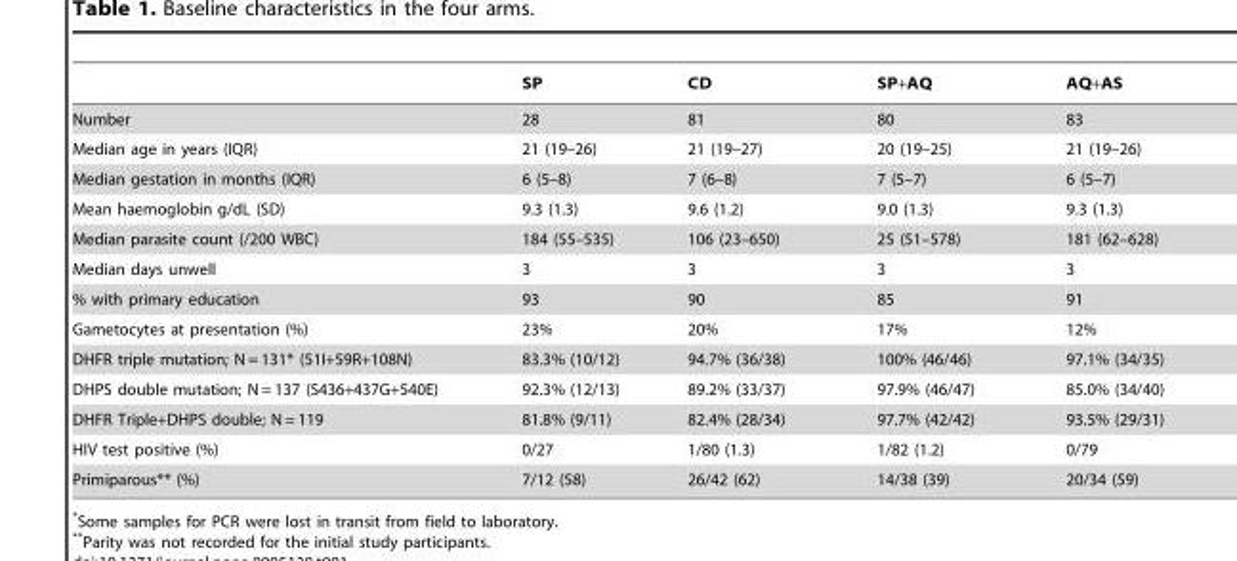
<table><thead><tr><td></td><td>SP</td><td>CD</td><td>SP+AQ</td><td>AQ+AS</td></tr></thead><tbody><tr><td>Number</td><td>28</td><td>81</td><td>80</td><td>83</td></tr><tr><td>Median age in years (IQR)</td><td>21 (19–26)</td><td>21 (19–27)</td><td>20 (19–25)</td><td>21 (19–26)</td></tr><tr><td>Median gestation in months (IQR)</td><td>6 (5–8)</td><td>7 (6–8)</td><td>7 (5–7)</td><td>6 (5–7)</td></tr><tr><td>Mean haemoglobin g/dL (SD)</td><td>9.3 (1.3)</td><td>9.6 (1.2)</td><td>9.0 (1.3)</td><td>9.3 (1.3)</td></tr><tr><td>Median parasite count (/200 WBC)</td><td>184 (55–535)</td><td>106 (23–650)</td><td>25 (51–578)</td><td>181 (62–628)</td></tr><tr><td>Median days unwell</td><td>3</td><td>3</td><td>3</td><td>3</td></tr><tr><td>% with primary education</td><td>93</td><td>90</td><td>85</td><td>91</td></tr><tr><td>Gametocytes at presentation (%)</td><td>23%</td><td>20%</td><td>17%</td><td>12%</td></tr><tr><td>DHFR triple mutation; N = 131* (51I+59R+108N)</td><td>83.3% (10/12)</td><td>94.7% (36/38)</td><td>100% (46/46)</td><td>97.1% (34/35)</td></tr><tr><td>DHPS double mutation; N = 137 (S436+437G+540E)</td><td>92.3% (12/13)</td><td>89.2% (33/37)</td><td>97.9% (46/47)</td><td>85.0% (34/40)</td></tr><tr><td>DHFR Triple+DHPS double; N = 119</td><td>81.8% (9/11)</td><td>82.4% (28/34)</td><td>97.7% (42/42)</td><td>93.5% (29/31)</td></tr><tr><td>HIV test positive (%)</td><td>0/27</td><td>1/80 (1.3)</td><td>1/82 (1.2)</td><td>0/79</td></tr><tr><td>Primiparous** (%)</td><td>7/12 (58)</td><td>26/42 (62)</td><td>14/38 (39)</td><td>20/34 (59)</td></tr></tbody></table>